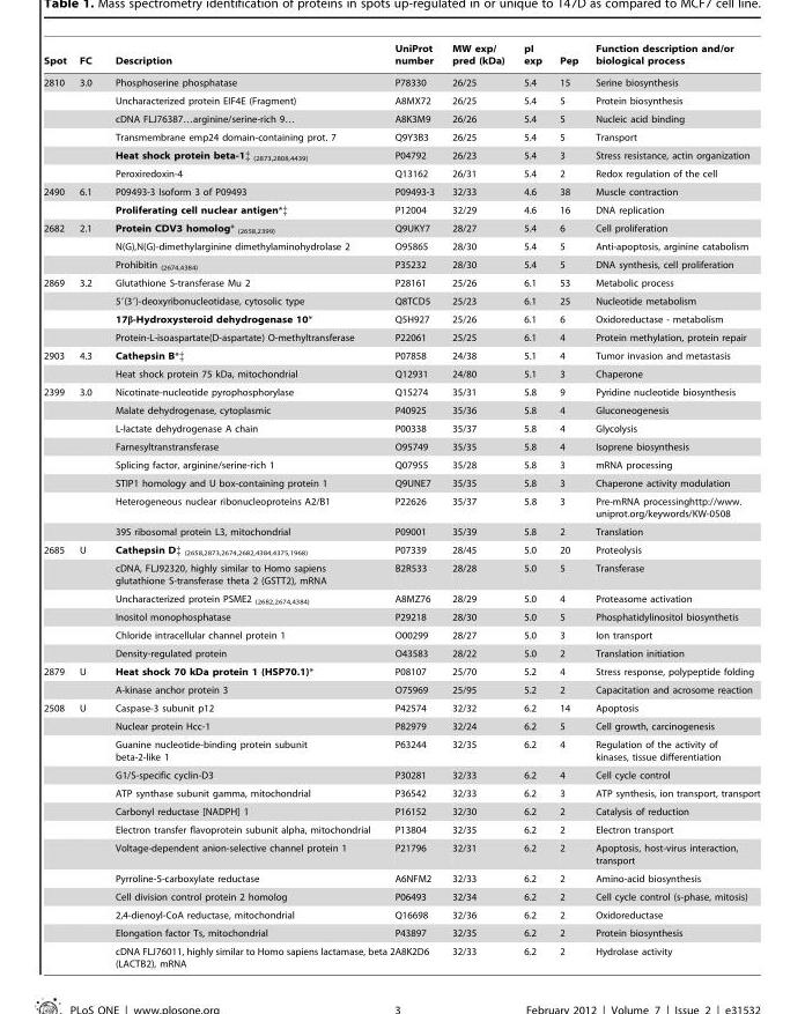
<table><thead><tr><td>Spot</td><td>FC</td><td>Description</td><td>UniProt number</td><td>MW exp/ pred (kDa)</td><td>pI exp</td><td>Pep</td><td>Function description and/or biological process</td></tr></thead><tbody><tr><td rowspan="6">2810</td><td>3.0</td><td>Phosphoserine phosphatase</td><td>P78330</td><td>26/25</td><td>5.4</td><td>15</td><td>Serine biosynthesis</td></tr><tr><td></td><td>Uncharacterized protein EIF4E (Fragment)</td><td>A8MX72</td><td>26/25</td><td>5.4</td><td>5</td><td>Protein biosynthesis</td></tr><tr><td></td><td>cDNA FLJ76387…arginine/serine-rich 9…</td><td>A8K3M9</td><td>26/26</td><td>5.4</td><td>5</td><td>Nucleic acid binding</td></tr><tr><td></td><td>Transmembrane emp24 domain-containing prot. 7</td><td>Q9Y3B3</td><td>26/25</td><td>5.4</td><td>5</td><td>Transport</td></tr><tr><td></td><td>Heat shock protein beta-1‡ <sub>(2873,2808,4439)</sub></td><td>P04792</td><td>26/23</td><td>5.4</td><td>3</td><td>Stress resistance, actin organization</td></tr><tr><td></td><td>Peroxiredoxin-4</td><td>Q13162</td><td>26/31</td><td>5.4</td><td>2</td><td>Redox regulation of the cell</td></tr><tr><td rowspan="2">2490</td><td>6.1</td><td>P09493-3 Isoform 3 of P09493</td><td>P09493-3</td><td>32/33</td><td>4.6</td><td>38</td><td>Muscle contraction</td></tr><tr><td></td><td>Proliferating cell nuclear antigen*‡</td><td>P12004</td><td>32/29</td><td>4.6</td><td>16</td><td>DNA replication</td></tr><tr><td rowspan="3">2682</td><td>2.1</td><td>Protein CDV3 homolog* <sub>(2658,2399)</sub></td><td>Q9UKY7</td><td>28/27</td><td>5.4</td><td>6</td><td>Cell proliferation</td></tr><tr><td></td><td>N(G),N(G)-dimethylarginine dimethylaminohydrolase 2</td><td>O95865</td><td>28/30</td><td>5.4</td><td>5</td><td>Anti-apoptosis, arginine catabolism</td></tr><tr><td></td><td>Prohibitin <sub>(2674,4384)</sub></td><td>P35232</td><td>28/30</td><td>5.4</td><td>5</td><td>DNA synthesis, cell proliferation</td></tr><tr><td rowspan="4">2869</td><td>3.2</td><td>Glutathione S-transferase Mu 2</td><td>P28161</td><td>25/26</td><td>6.1</td><td>53</td><td>Metabolic process</td></tr><tr><td></td><td>5′(3′)-deoxyribonucleotidase, cytosolic type</td><td>Q8TCD5</td><td>25/23</td><td>6.1</td><td>25</td><td>Nucleotide metabolism</td></tr><tr><td></td><td>17β-Hydroxysteroid dehydrogenase 10*</td><td>Q5H927</td><td>25/26</td><td>6.1</td><td>6</td><td>Oxidoreductase - metabolism</td></tr><tr><td></td><td>Protein-L-isoaspartate(D-aspartate) O-methyltransferase</td><td>P22061</td><td>25/25</td><td>6.1</td><td>4</td><td>Protein methylation, protein repair</td></tr><tr><td rowspan="2">2903</td><td>4.3</td><td>Cathepsin B*‡</td><td>P07858</td><td>24/38</td><td>5.1</td><td>4</td><td>Tumor invasion and metastasis</td></tr><tr><td></td><td>Heat shock protein 75 kDa, mitochondrial</td><td>Q12931</td><td>24/80</td><td>5.1</td><td>3</td><td>Chaperone</td></tr><tr><td rowspan="8">2399</td><td>3.0</td><td>Nicotinate-nucleotide pyrophosphorylase</td><td>Q15274</td><td>35/31</td><td>5.8</td><td>9</td><td>Pyridine nucleotide biosynthesis</td></tr><tr><td></td><td>Malate dehydrogenase, cytoplasmic</td><td>P40925</td><td>35/36</td><td>5.8</td><td>4</td><td>Gluconeogenesis</td></tr><tr><td></td><td>L-lactate dehydrogenase A chain</td><td>P00338</td><td>35/37</td><td>5.8</td><td>4</td><td>Glycolysis</td></tr><tr><td></td><td>Farnesyltranstransferase</td><td>O95749</td><td>35/35</td><td>5.8</td><td>4</td><td>Isoprene biosynthesis</td></tr><tr><td></td><td>Splicing factor, arginine/serine-rich 1</td><td>Q07955</td><td>35/28</td><td>5.8</td><td>3</td><td>mRNA processing</td></tr><tr><td></td><td>STIP1 homology and U box-containing protein 1</td><td>Q9UNE7</td><td>35/35</td><td>5.8</td><td>3</td><td>Chaperone activity modulation</td></tr><tr><td></td><td>Heterogeneous nuclear ribonucleoproteins A2/B1</td><td>P22626</td><td>35/37</td><td>5.8</td><td>3</td><td>Pre-mRNA processinghttp://www. uniprot.org/keywords/KW-0508</td></tr><tr><td></td><td>39S ribosomal protein L3, mitochondrial</td><td>P09001</td><td>35/39</td><td>5.8</td><td>2</td><td>Translation</td></tr><tr><td rowspan="6">2685</td><td>U</td><td>Cathepsin D‡ <sub>(2658,2873,2674,2682,4384,4375,1968)</sub></td><td>P07339</td><td>28/45</td><td>5.0</td><td>20</td><td>Proteolysis</td></tr><tr><td></td><td>cDNA, FLJ92320, highly similar to Homo sapiens glutathione S-transferase theta 2 (GSTT2), mRNA</td><td>B2R533</td><td>28/28</td><td>5.0</td><td>5</td><td>Transferase</td></tr><tr><td></td><td>Uncharacterized protein PSME2 <sub>(2682,2674,4384)</sub></td><td>A8MZ76</td><td>28/29</td><td>5.0</td><td>4</td><td>Proteasome activation</td></tr><tr><td></td><td>Inositol monophosphatase</td><td>P29218</td><td>28/30</td><td>5.0</td><td>5</td><td>Phosphatidylinositol biosynthetis</td></tr><tr><td></td><td>Chloride intracellular channel protein 1</td><td>O00299</td><td>28/27</td><td>5.0</td><td>3</td><td>Ion transport</td></tr><tr><td></td><td>Density-regulated protein</td><td>O43583</td><td>28/22</td><td>5.0</td><td>2</td><td>Translation initiation</td></tr><tr><td rowspan="2">2879</td><td>U</td><td>Heat shock 70 kDa protein 1 (HSP70.1)*</td><td>P08107</td><td>25/70</td><td>5.2</td><td>4</td><td>Stress response, polypeptide folding</td></tr><tr><td></td><td>A-kinase anchor protein 3</td><td>O75969</td><td>25/95</td><td>5.2</td><td>2</td><td>Capacitation and acrosome reaction</td></tr><tr><td rowspan="13">2508</td><td>U</td><td>Caspase-3 subunit p12</td><td>P42574</td><td>32/32</td><td>6.2</td><td>14</td><td>Apoptosis</td></tr><tr><td></td><td>Nuclear protein Hcc-1</td><td>P82979</td><td>32/24</td><td>6.2</td><td>5</td><td>Cell growth, carcinogenesis</td></tr><tr><td></td><td>Guanine nucleotide-binding protein subunit beta-2-like 1</td><td>P63244</td><td>32/35</td><td>6.2</td><td>4</td><td>Regulation of the activity of kinases, tissue differentiation</td></tr><tr><td></td><td>G1/S-specific cyclin-D3</td><td>P30281</td><td>32/33</td><td>6.2</td><td>4</td><td>Cell cycle control</td></tr><tr><td></td><td>ATP synthase subunit gamma, mitochondrial</td><td>P36542</td><td>32/33</td><td>6.2</td><td>3</td><td>ATP synthesis, ion transport, transport</td></tr><tr><td></td><td>Carbonyl reductase [NADPH] 1</td><td>P16152</td><td>32/30</td><td>6.2</td><td>2</td><td>Catalysis of reduction</td></tr><tr><td></td><td>Electron transfer flavoprotein subunit alpha, mitochondrial</td><td>P13804</td><td>32/35</td><td>6.2</td><td>2</td><td>Electron transport</td></tr><tr><td></td><td>Voltage-dependent anion-selective channel protein 1</td><td>P21796</td><td>32/31</td><td>6.2</td><td>2</td><td>Apoptosis, host-virus interaction, transport</td></tr><tr><td></td><td>Pyrroline-5-carboxylate reductase</td><td>A6NFM2</td><td>32/33</td><td>6.2</td><td>2</td><td>Amino-acid biosynthesis</td></tr><tr><td></td><td>Cell division control protein 2 homolog</td><td>P06493</td><td>32/34</td><td>6.2</td><td>2</td><td>Cell cycle control (s-phase, mitosis)</td></tr><tr><td></td><td>2,4-dienoyl-CoA reductase, mitochondrial</td><td>Q16698</td><td>32/36</td><td>6.2</td><td>2</td><td>Oxidoreductase</td></tr><tr><td></td><td>Elongation factor Ts, mitochondrial</td><td>P43897</td><td>32/35</td><td>6.2</td><td>2</td><td>Protein biosynthesis</td></tr><tr><td></td><td>cDNA FLJ76011, highly similar to Homo sapiens lactamase, beta 2 (LACTB2), mRNA</td><td>A8K2D6</td><td>32/33</td><td>6.2</td><td>2</td><td>Hydrolase activity</td></tr></tbody></table>